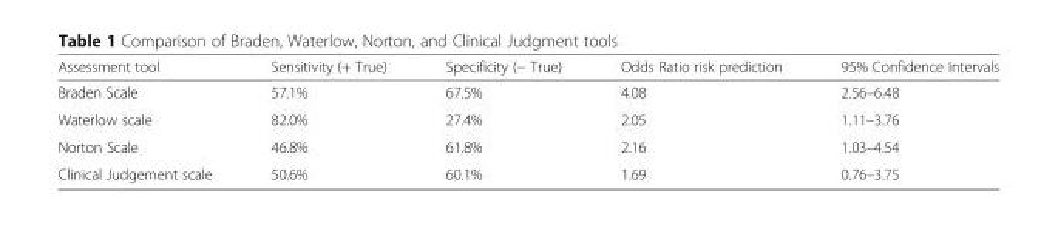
<table><thead><tr><td>Assessment tool</td><td>Sensitivity (+ True)</td><td>Specificity (− True)</td><td>Odds Ratio risk prediction</td><td>95% Confidence Intervals</td></tr></thead><tbody><tr><td>Braden Scale</td><td>57.1%</td><td>67.5%</td><td>4.08</td><td>2.56–6.48</td></tr><tr><td>Waterlow scale</td><td>82.0%</td><td>27.4%</td><td>2.05</td><td>1.11–3.76</td></tr><tr><td>Norton Scale</td><td>46.8%</td><td>61.8%</td><td>2.16</td><td>1.03–4.54</td></tr><tr><td>Clinical Judgement scale</td><td>50.6%</td><td>60.1%</td><td>1.69</td><td>0.76–3.75</td></tr></tbody></table>